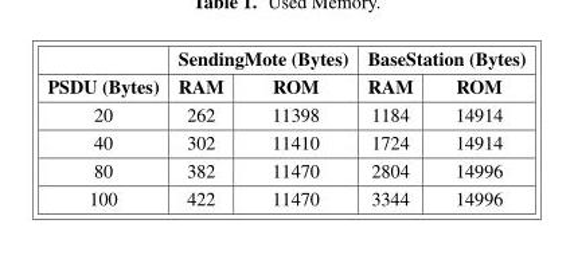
<table><thead><tr><td rowspan="2">PSDU (Bytes)</td><td colspan="2">SendingMote (Bytes)</td><td colspan="2">BaseStation (Bytes)</td></tr><tr><td>RAM</td><td>ROM</td><td>RAM</td><td>ROM</td></tr></thead><tbody><tr><td>20</td><td>262</td><td>11398</td><td>1184</td><td>14914</td></tr><tr><td>40</td><td>302</td><td>11410</td><td>1724</td><td>14914</td></tr><tr><td>80</td><td>382</td><td>11470</td><td>2804</td><td>14996</td></tr><tr><td>100</td><td>422</td><td>11470</td><td>3344</td><td>14996</td></tr></tbody></table>